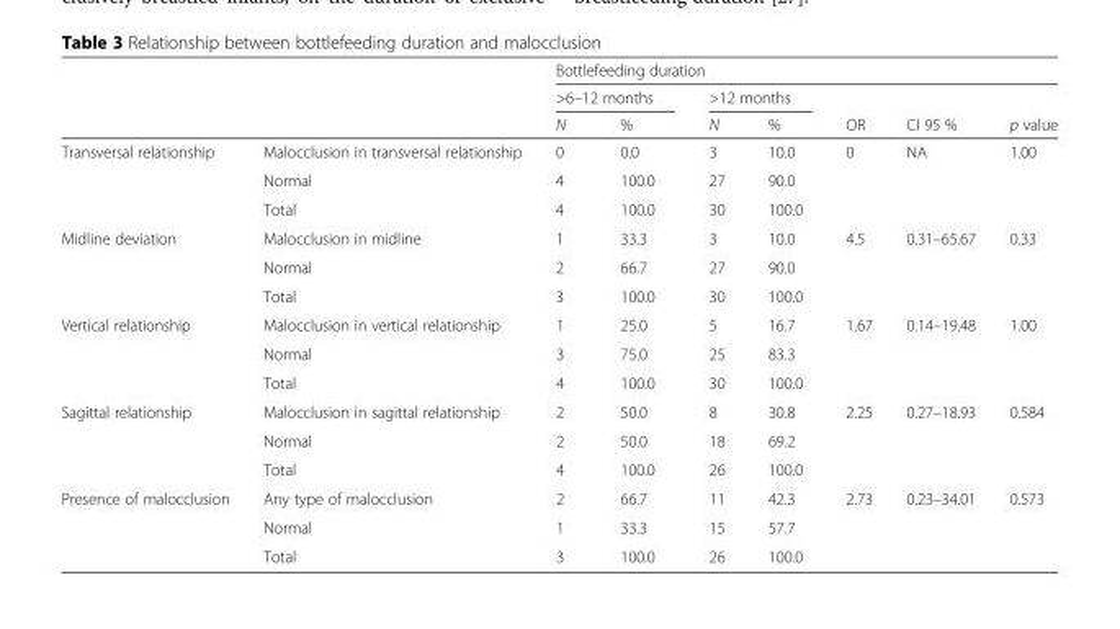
<table><thead><tr><td rowspan="3"></td><td rowspan="3"></td><td colspan="7">Bottlefeeding duration</td></tr><tr><td colspan="2">&gt;6–12 months</td><td colspan="2">&gt;12 months</td><td rowspan="2">OR</td><td rowspan="2">CI 95 %</td><td rowspan="2">p value</td></tr><tr><td>N</td><td>%</td><td>N</td><td>%</td></tr></thead><tbody><tr><td rowspan="3">Transversal relationship</td><td>Malocclusion in transversal relationship</td><td>0</td><td>0.0</td><td>3</td><td>10.0</td><td>0</td><td>NA</td><td>1.00</td></tr><tr><td>Normal</td><td>4</td><td>100.0</td><td>27</td><td>90.0</td><td></td><td></td><td></td></tr><tr><td>Total</td><td>4</td><td>100.0</td><td>30</td><td>100.0</td><td></td><td></td><td></td></tr><tr><td rowspan="3">Midline deviation</td><td>Malocclusion in midline</td><td>1</td><td>33.3</td><td>3</td><td>10.0</td><td>4.5</td><td>0.31–65.67</td><td>0.33</td></tr><tr><td>Normal</td><td>2</td><td>66.7</td><td>27</td><td>90.0</td><td></td><td></td><td></td></tr><tr><td>Total</td><td>3</td><td>100.0</td><td>30</td><td>100.0</td><td></td><td></td><td></td></tr><tr><td rowspan="3">Vertical relationship</td><td>Malocclusion in vertical relationship</td><td>1</td><td>25.0</td><td>5</td><td>16.7</td><td>1.67</td><td>0.14–19.48</td><td>1.00</td></tr><tr><td>Normal</td><td>3</td><td>75.0</td><td>25</td><td>83.3</td><td></td><td></td><td></td></tr><tr><td>Total</td><td>4</td><td>100.0</td><td>30</td><td>100.0</td><td></td><td></td><td></td></tr><tr><td rowspan="3">Sagittal relationship</td><td>Malocclusion in sagittal relationship</td><td>2</td><td>50.0</td><td>8</td><td>30.8</td><td>2.25</td><td>0.27–18.93</td><td>0.584</td></tr><tr><td>Normal</td><td>2</td><td>50.0</td><td>18</td><td>69.2</td><td></td><td></td><td></td></tr><tr><td>Total</td><td>4</td><td>100.0</td><td>26</td><td>100.0</td><td></td><td></td><td></td></tr><tr><td rowspan="3">Presence of malocclusion</td><td>Any type of malocclusion</td><td>2</td><td>66.7</td><td>11</td><td>42.3</td><td>2.73</td><td>0.23–34.01</td><td>0.573</td></tr><tr><td>Normal</td><td>1</td><td>33.3</td><td>15</td><td>57.7</td><td></td><td></td><td></td></tr><tr><td>Total</td><td>3</td><td>100.0</td><td>26</td><td>100.0</td><td></td><td></td><td></td></tr></tbody></table>